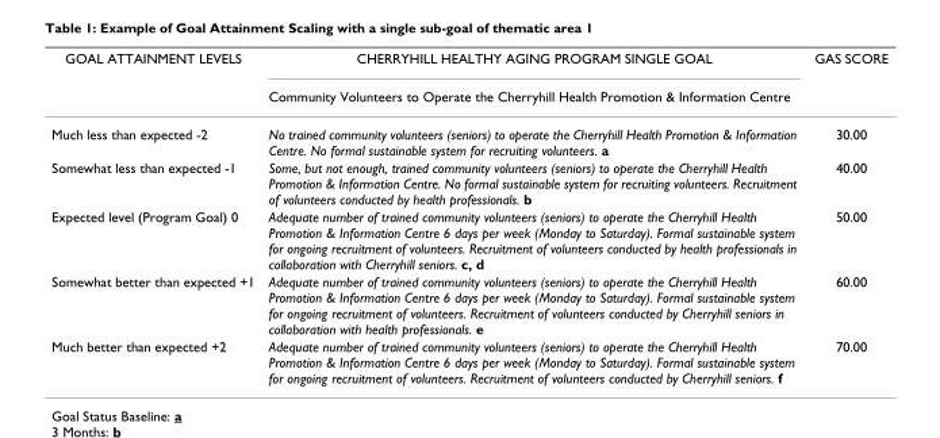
<table><thead><tr><td rowspan="2">GOAL ATTAINMENT LEVELS</td><td rowspan="2">CHERRYHILL HEALTHY AGING PROGRAM SINGLE GOAL Community Volunteers to Operate the Cherryhill Health Promotion &amp; Information Centre</td><td rowspan="2">GAS SCORE</td></tr><tr></tr></thead><tbody><tr><td>Much less than expected -2</td><td>No trained community volunteers (seniors) to operate the Cherryhill Health Promotion &amp; Information Centre. No formal sustainable system for recruiting volunteers. a</td><td>30.00</td></tr><tr><td>Somewhat less than expected -1</td><td>Some, but not enough, trained community volunteers (seniors) to operate the Cherryhill Health Promotion &amp; Information Centre. No formal sustainable system for recruiting volunteers. Recruitment of volunteers conducted by health professionals. b</td><td>40.00</td></tr><tr><td>Expected level (Program Goal) 0</td><td>Adequate number of trained community volunteers (seniors) to operate the Cherryhill Health Promotion &amp; Information Centre 6 days per week (Monday to Saturday). Formal sustainable system for ongoing recruitment of volunteers. Recruitment of volunteers conducted by health professionals in collaboration with Cherryhill seniors. c, d</td><td>50.00</td></tr><tr><td>Somewhat better than expected +1</td><td>Adequate number of trained community volunteers (seniors) to operate the Cherryhill Health Promotion &amp; Information Centre 6 days per week (Monday to Saturday). Formal sustainable system for ongoing recruitment of volunteers. Recruitment of volunteers conducted by Cherryhill seniors in collaboration with health professionals. e</td><td>60.00</td></tr><tr><td>Much better than expected +2</td><td>Adequate number of trained community volunteers (seniors) to operate the Cherryhill Health Promotion &amp; Information Centre 6 days per week (Monday to Saturday). Formal sustainable system for ongoing recruitment of volunteers. Recruitment of volunteers conducted by Cherryhill seniors. f</td><td>70.00</td></tr></tbody></table>